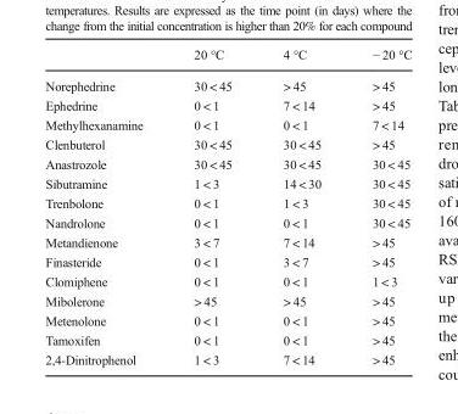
<table><thead><tr><td></td><td>20 °C</td><td>4 °C</td><td>− 20 °C</td></tr></thead><tbody><tr><td>Norephedrine</td><td>30 &lt; 45</td><td>&gt; 45</td><td>&gt; 45</td></tr><tr><td>Ephedrine</td><td>0 &lt; 1</td><td>7 &lt; 14</td><td>&gt; 45</td></tr><tr><td>Methylhexanamine</td><td>0 &lt; 1</td><td>0 &lt; 1</td><td>7 &lt; 14</td></tr><tr><td>Clenbuterol</td><td>30 &lt; 45</td><td>30 &lt; 45</td><td>&gt; 45</td></tr><tr><td>Anastrozole</td><td>30 &lt; 45</td><td>30 &lt; 45</td><td>30 &lt; 45</td></tr><tr><td>Sibutramine</td><td>1 &lt; 3</td><td>14 &lt; 30</td><td>30 &lt; 45</td></tr><tr><td>Trenbolone</td><td>0 &lt; 1</td><td>1 &lt; 3</td><td>30 &lt; 45</td></tr><tr><td>Nandrolone</td><td>0 &lt; 1</td><td>0 &lt; 1</td><td>30 &lt; 45</td></tr><tr><td>Metandienone</td><td>3 &lt; 7</td><td>7 &lt; 14</td><td>&gt; 45</td></tr><tr><td>Finasteride</td><td>0 &lt; 1</td><td>3 &lt; 7</td><td>&gt; 45</td></tr><tr><td>Clomiphene</td><td>0 &lt; 1</td><td>0 &lt; 1</td><td>1 &lt; 3</td></tr><tr><td>Mibolerone</td><td>&gt; 45</td><td>&gt; 45</td><td>&gt; 45</td></tr><tr><td>Metenolone</td><td>0 &lt; 1</td><td>0 &lt; 1</td><td>&gt; 45</td></tr><tr><td>Tamoxifen</td><td>0 &lt; 1</td><td>0 &lt; 1</td><td>&gt; 45</td></tr><tr><td>2,4-Dinitrophenol</td><td>1 &lt; 3</td><td>7 &lt; 14</td><td>&gt; 45</td></tr></tbody></table>